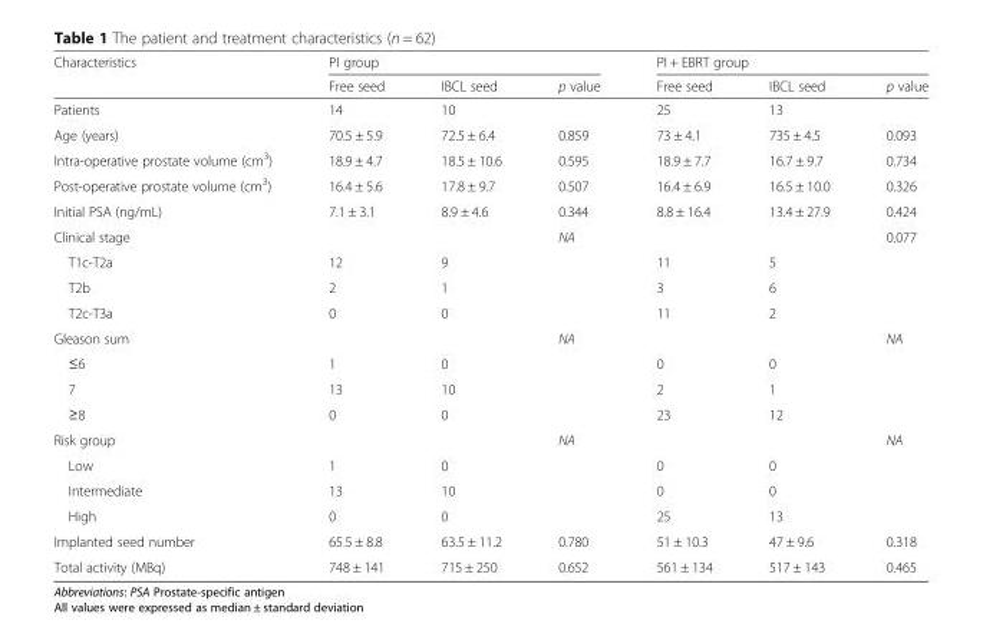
<table><thead><tr><td rowspan="2">Characteristics</td><td colspan="3">PI group</td><td colspan="3">PI + EBRT group</td></tr><tr><td>Free seed</td><td>IBCL seed</td><td>p value</td><td>Free seed</td><td>IBCL seed</td><td>p value</td></tr></thead><tbody><tr><td>Patients</td><td>14</td><td>10</td><td></td><td>25</td><td>13</td><td></td></tr><tr><td>Age (years)</td><td>70.5 ± 5.9</td><td>72.5 ± 6.4</td><td>0.859</td><td>73 ± 4.1</td><td>735 ± 4.5</td><td>0.093</td></tr><tr><td>Intra-operative prostate volume (cm<sup>3</sup>)</td><td>18.9 ± 4.7</td><td>18.5 ± 10.6</td><td>0.595</td><td>18.9 ± 7.7</td><td>16.7 ± 9.7</td><td>0.734</td></tr><tr><td>Post-operative prostate volume (cm<sup>3</sup>)</td><td>16.4 ± 5.6</td><td>17.8 ± 9.7</td><td>0.507</td><td>16.4 ± 6.9</td><td>16.5 ± 10.0</td><td>0.326</td></tr><tr><td>Initial PSA (ng/mL)</td><td>7.1 ± 3.1</td><td>8.9 ± 4.6</td><td>0.344</td><td>8.8 ± 16.4</td><td>13.4 ± 27.9</td><td>0.424</td></tr><tr><td>Clinical stage</td><td></td><td></td><td>NA</td><td></td><td></td><td>0.077</td></tr><tr><td>T1c-T2a</td><td>12</td><td>9</td><td></td><td>11</td><td>5</td><td></td></tr><tr><td>T2b</td><td>2</td><td>1</td><td></td><td>3</td><td>6</td><td></td></tr><tr><td>T2c-T3a</td><td>0</td><td>0</td><td></td><td>11</td><td>2</td><td></td></tr><tr><td>Gleason sum</td><td></td><td></td><td>NA</td><td></td><td></td><td>NA</td></tr><tr><td>≤6</td><td>1</td><td>0</td><td></td><td>0</td><td>0</td><td></td></tr><tr><td>7</td><td>13</td><td>10</td><td></td><td>2</td><td>1</td><td></td></tr><tr><td>≥8</td><td>0</td><td>0</td><td></td><td>23</td><td>12</td><td></td></tr><tr><td>Risk group</td><td></td><td></td><td>NA</td><td></td><td></td><td>NA</td></tr><tr><td>Low</td><td>1</td><td>0</td><td></td><td>0</td><td>0</td><td></td></tr><tr><td>Intermediate</td><td>13</td><td>10</td><td></td><td>0</td><td>0</td><td></td></tr><tr><td>High</td><td>0</td><td>0</td><td></td><td>25</td><td>13</td><td></td></tr><tr><td>Implanted seed number</td><td>65.5 ± 8.8</td><td>63.5 ± 11.2</td><td>0.780</td><td>51 ± 10.3</td><td>47 ± 9.6</td><td>0.318</td></tr><tr><td>Total activity (MBq)</td><td>748 ± 141</td><td>715 ± 250</td><td>0.652</td><td>561 ± 134</td><td>517 ± 143</td><td>0.465</td></tr></tbody></table>